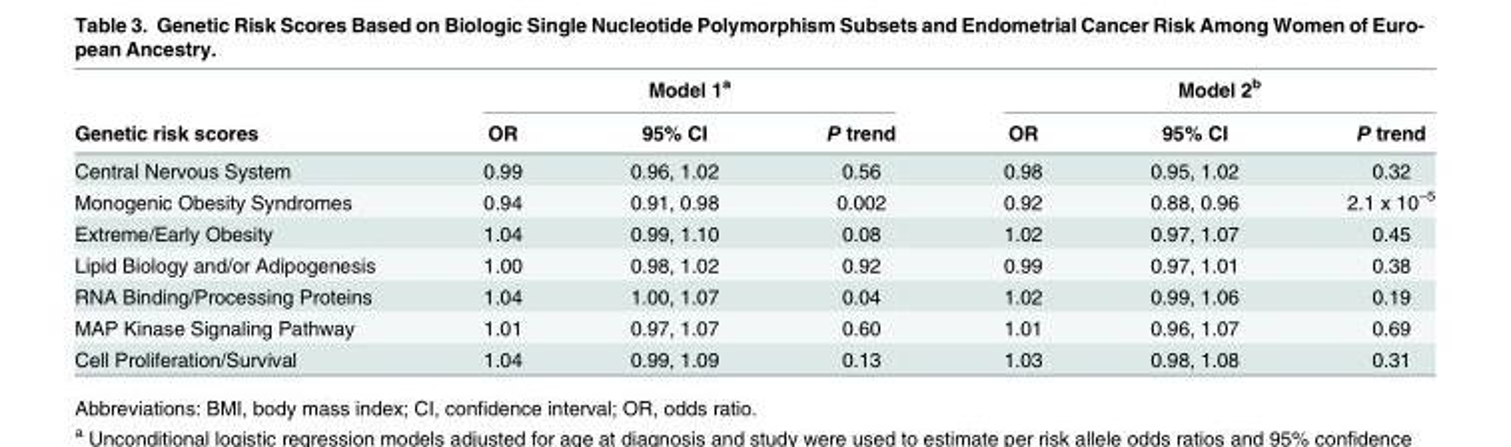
<table><thead><tr><td rowspan="2">Genetic risk scores</td><td colspan="3">Model 1<sup>a</sup></td><td colspan="3">Model 2<sup>b</sup></td></tr><tr><td>OR</td><td>95% CI</td><td>P trend</td><td>OR</td><td>95% CI</td><td>P trend</td></tr></thead><tbody><tr><td>Central Nervous System</td><td>0.99</td><td>0.96, 1.02</td><td>0.56</td><td>0.98</td><td>0.95, 1.02</td><td>0.32</td></tr><tr><td>Monogenic Obesity Syndromes</td><td>0.94</td><td>0.91, 0.98</td><td>0.002</td><td>0.92</td><td>0.88, 0.96</td><td>2.1 x 10<sup>−5</sup></td></tr><tr><td>Extreme/Early Obesity</td><td>1.04</td><td>0.99, 1.10</td><td>0.08</td><td>1.02</td><td>0.97, 1.07</td><td>0.45</td></tr><tr><td>Lipid Biology and/or Adipogenesis</td><td>1.00</td><td>0.98, 1.02</td><td>0.92</td><td>0.99</td><td>0.97, 1.01</td><td>0.38</td></tr><tr><td>RNA Binding/Processing Proteins</td><td>1.04</td><td>1.00, 1.07</td><td>0.04</td><td>1.02</td><td>0.99, 1.06</td><td>0.19</td></tr><tr><td>MAP Kinase Signaling Pathway</td><td>1.01</td><td>0.97, 1.07</td><td>0.60</td><td>1.01</td><td>0.96, 1.07</td><td>0.69</td></tr><tr><td>Cell Proliferation/Survival</td><td>1.04</td><td>0.99, 1.09</td><td>0.13</td><td>1.03</td><td>0.98, 1.08</td><td>0.31</td></tr></tbody></table>